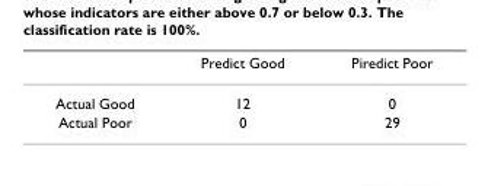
<table><thead><tr><td></td><td>Predict Good</td><td>Piredict Poor</td></tr></thead><tbody><tr><td>Actual Good</td><td>12</td><td>0</td></tr><tr><td>Actual Poor</td><td>0</td><td>29</td></tr></tbody></table>